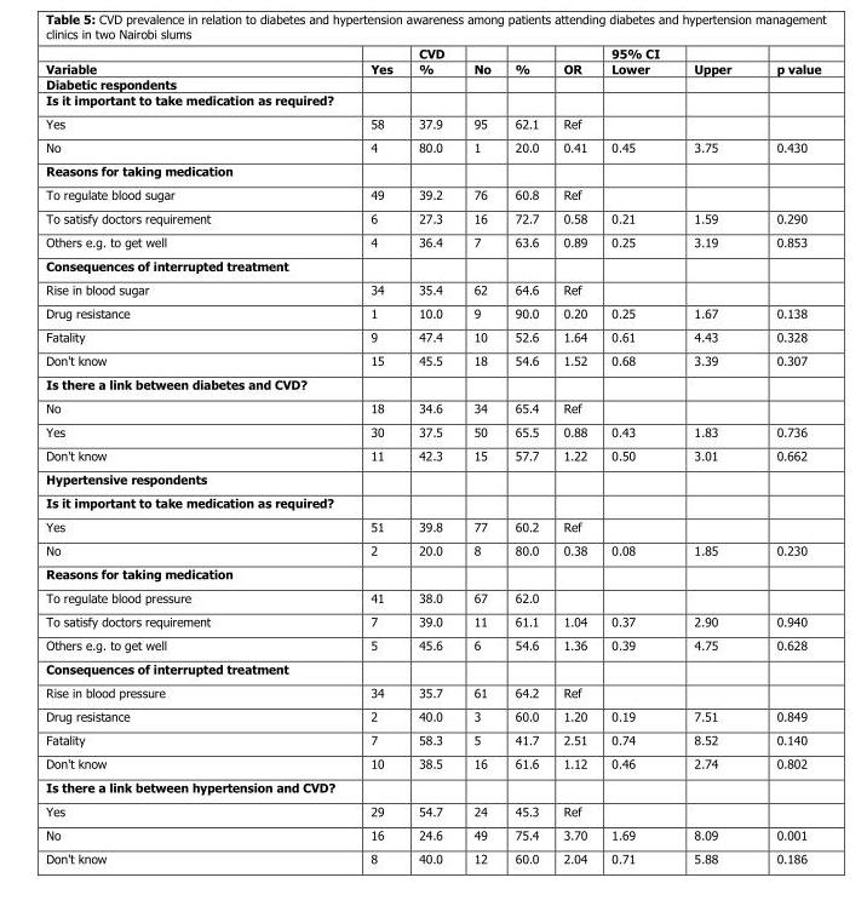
<table><thead><tr><td rowspan="2">Variable</td><td rowspan="2">Yes</td><td rowspan="2">CVD %</td><td rowspan="2">No</td><td rowspan="2">%</td><td rowspan="2">OR</td><td rowspan="2">95% CI Lower</td><td rowspan="2">Upper</td><td rowspan="2">p value</td></tr><tr></tr></thead><tbody><tr><td colspan="9">Diabetic respondents</td></tr><tr><td colspan="9">Is it important to take medication as required?</td></tr><tr><td>Yes</td><td>58</td><td>37.9</td><td>95</td><td>62.1</td><td>Ref</td><td></td><td></td><td></td></tr><tr><td>No</td><td>4</td><td>80.0</td><td>1</td><td>20.0</td><td>0.41</td><td>0.45</td><td>3.75</td><td>0.430</td></tr><tr><td colspan="9">Reasons for taking medication</td></tr><tr><td>To regulate blood sugar</td><td>49</td><td>39.2</td><td>76</td><td>60.8</td><td>Ref</td><td></td><td></td><td></td></tr><tr><td>To satisfy doctors requirement</td><td>6</td><td>27.3</td><td>16</td><td>72.7</td><td>0.58</td><td>0.21</td><td>1.59</td><td>0.290</td></tr><tr><td>Others e.g. to get well</td><td>4</td><td>36.4</td><td>7</td><td>63.6</td><td>0.89</td><td>0.25</td><td>3.19</td><td>0.853</td></tr><tr><td colspan="9">Consequences of interrupted treatment</td></tr><tr><td>Rise in blood sugar</td><td>34</td><td>35.4</td><td>62</td><td>64.6</td><td>Ref</td><td></td><td></td><td></td></tr><tr><td>Drug resistance</td><td>1</td><td>10.0</td><td>9</td><td>90.0</td><td>0.20</td><td>0.25</td><td>1.67</td><td>0.138</td></tr><tr><td>Fatality</td><td>9</td><td>47.4</td><td>10</td><td>52.6</td><td>1.64</td><td>0.61</td><td>4.43</td><td>0.328</td></tr><tr><td>Don&#x27;t know</td><td>15</td><td>45.5</td><td>18</td><td>54.6</td><td>1.52</td><td>0.68</td><td>3.39</td><td>0.307</td></tr><tr><td colspan="9">Is there a link between diabetes and CVD?</td></tr><tr><td>No</td><td>18</td><td>34.6</td><td>34</td><td>65.4</td><td>Ref</td><td></td><td></td><td></td></tr><tr><td>Yes</td><td>30</td><td>37.5</td><td>50</td><td>65.5</td><td>0.88</td><td>0.43</td><td>1.83</td><td>0.736</td></tr><tr><td>Don&#x27;t know</td><td>11</td><td>42.3</td><td>15</td><td>57.7</td><td>1.22</td><td>0.50</td><td>3.01</td><td>0.662</td></tr><tr><td colspan="9">Hypertensive respondents</td></tr><tr><td colspan="9">Is it important to take medication as required?</td></tr><tr><td>Yes</td><td>51</td><td>39.8</td><td>77</td><td>60.2</td><td>Ref</td><td></td><td></td><td></td></tr><tr><td>No</td><td>2</td><td>20.0</td><td>8</td><td>80.0</td><td>0.38</td><td>0.08</td><td>1.85</td><td>0.230</td></tr><tr><td colspan="9">Reasons for taking medication</td></tr><tr><td>To regulate blood pressure</td><td>41</td><td>38.0</td><td>67</td><td>62.0</td><td></td><td></td><td></td><td></td></tr><tr><td>To satisfy doctors requirement</td><td>7</td><td>39.0</td><td>11</td><td>61.1</td><td>1.04</td><td>0.37</td><td>2.90</td><td>0.940</td></tr><tr><td>Others e.g. to get well</td><td>5</td><td>45.6</td><td>6</td><td>54.6</td><td>1.36</td><td>0.39</td><td>4.75</td><td>0.628</td></tr><tr><td colspan="9">Consequences of interrupted treatment</td></tr><tr><td>Rise in blood pressure</td><td>34</td><td>35.7</td><td>61</td><td>64.2</td><td>Ref</td><td></td><td></td><td></td></tr><tr><td>Drug resistance</td><td>2</td><td>40.0</td><td>3</td><td>60.0</td><td>1.20</td><td>0.19</td><td>7.51</td><td>0.849</td></tr><tr><td>Fatality</td><td>7</td><td>58.3</td><td>5</td><td>41.7</td><td>2.51</td><td>0.74</td><td>8.52</td><td>0.140</td></tr><tr><td>Don&#x27;t know</td><td>10</td><td>38.5</td><td>16</td><td>61.6</td><td>1.12</td><td>0.46</td><td>2.74</td><td>0.802</td></tr><tr><td colspan="9">Is there a link between hypertension and CVD?</td></tr><tr><td>Yes</td><td>29</td><td>54.7</td><td>24</td><td>45.3</td><td>Ref</td><td></td><td></td><td></td></tr><tr><td>No</td><td>16</td><td>24.6</td><td>49</td><td>75.4</td><td>3.70</td><td>1.69</td><td>8.09</td><td>0.001</td></tr><tr><td>Don&#x27;t know</td><td>8</td><td>40.0</td><td>12</td><td>60.0</td><td>2.04</td><td>0.71</td><td>5.88</td><td>0.186</td></tr></tbody></table>